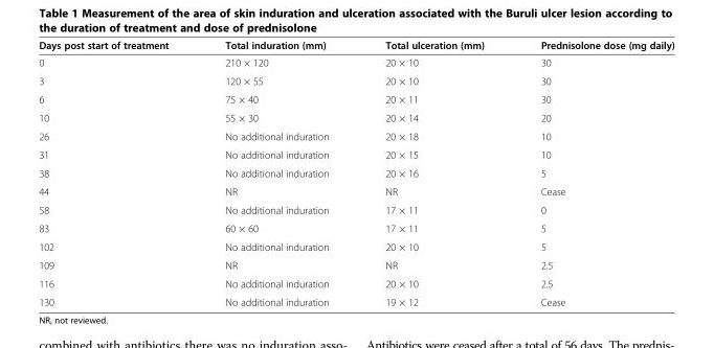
<table><thead><tr><td>Days post start of treatment</td><td>Total induration (mm)</td><td>Total ulceration (mm)</td><td>Prednisolone dose (mg daily)</td></tr></thead><tbody><tr><td>0</td><td>210 × 120</td><td>20 × 10</td><td>30</td></tr><tr><td>3</td><td>120 × 55</td><td>20 × 10</td><td>30</td></tr><tr><td>6</td><td>75 × 40</td><td>20 × 11</td><td>30</td></tr><tr><td>10</td><td>55 × 30</td><td>20 × 14</td><td>20</td></tr><tr><td>26</td><td>No additional induration</td><td>20 × 18</td><td>10</td></tr><tr><td>31</td><td>No additional induration</td><td>20 × 15</td><td>10</td></tr><tr><td>38</td><td>No additional induration</td><td>20 × 16</td><td>5</td></tr><tr><td>44</td><td>NR</td><td>NR</td><td>Cease</td></tr><tr><td>58</td><td>No additional induration</td><td>17 × 11</td><td>0</td></tr><tr><td>83</td><td>60 × 60</td><td>17 × 11</td><td>5</td></tr><tr><td>102</td><td>No additional induration</td><td>20 × 10</td><td>5</td></tr><tr><td>109</td><td>NR</td><td>NR</td><td>2.5</td></tr><tr><td>116</td><td>No additional induration</td><td>20 × 10</td><td>2.5</td></tr><tr><td>130</td><td>No additional induration</td><td>19 × 12</td><td>Cease</td></tr></tbody></table>